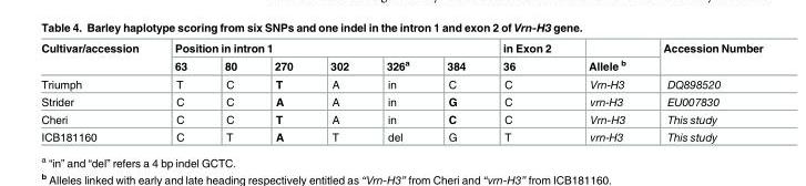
<table><thead><tr><td rowspan="2">Cultivar/accession</td><td colspan="6">Position in intron 1</td><td rowspan="2">in Exon 2 36</td><td rowspan="2">Allele <sup>b</sup></td><td rowspan="2">Accession Number</td></tr><tr><td>63</td><td>80</td><td>270</td><td>302</td><td>326<sup>a</sup></td><td>384</td></tr></thead><tbody><tr><td>Triumph</td><td>T</td><td>C</td><td>T</td><td>A</td><td>in</td><td>C</td><td>C</td><td>Vrn-H3</td><td>DQ898520</td></tr><tr><td>Strider</td><td>C</td><td>C</td><td>A</td><td>A</td><td>in</td><td>G</td><td>C</td><td>vrn-H3</td><td>EU007830</td></tr><tr><td>Cheri</td><td>C</td><td>C</td><td>T</td><td>A</td><td>in</td><td>C</td><td>C</td><td>Vrn-H3</td><td>This study</td></tr><tr><td>ICB181160</td><td>C</td><td>T</td><td>A</td><td>T</td><td>del</td><td>G</td><td>T</td><td>vrn-H3</td><td>This study</td></tr></tbody></table>